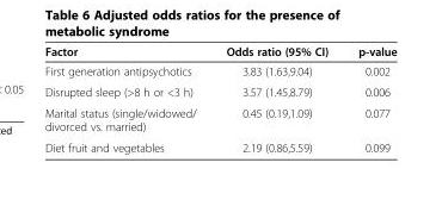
<table><thead><tr><td>Factor</td><td>Odds ratio (95% CI)</td><td>p-value</td></tr></thead><tbody><tr><td>First generation antipsychotics</td><td>3.83 (1.63,9.04)</td><td>0.002</td></tr><tr><td>Disrupted sleep (&gt;8 h or &lt;3 h)</td><td>3.57 (1.45,8.79)</td><td>0.006</td></tr><tr><td>Marital status (single/widowed/ divorced vs. married)</td><td>0.45 (0.19,1.09)</td><td>0.077</td></tr><tr><td>Diet fruit and vegetables</td><td>2.19 (0.86,5.59)</td><td>0.099</td></tr></tbody></table>